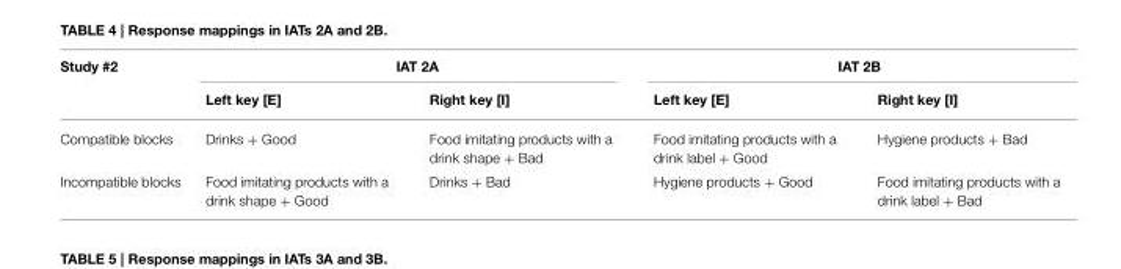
<table><thead><tr><td rowspan="2">Study #2</td><td colspan="2">IAT 2A</td><td colspan="2">IAT 2B</td></tr><tr><td>Left key [E]</td><td>Right key [I]</td><td>Left key [E]</td><td>Right key [I]</td></tr></thead><tbody><tr><td>Compatible blocks</td><td>Drinks + Good</td><td>Food imitating products with a drink shape + Bad</td><td>Food imitating products with a drink label + Good</td><td>Hygiene products + Bad</td></tr><tr><td>Incompatible blocks</td><td>Food imitating products with a drink shape + Good</td><td>Drinks + Bad</td><td>Hygiene products + Good</td><td>Food imitating products with a drink label + Bad</td></tr></tbody></table>